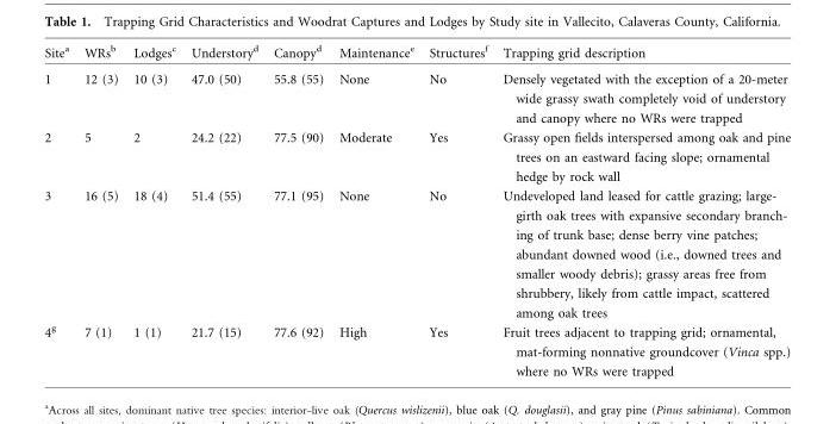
<table><thead><tr><td>Site<sup>a</sup></td><td>WRs<sup>b</sup></td><td>Lodges<sup>c</sup></td><td>Understory<sup>d</sup></td><td>Canopy<sup>d</sup></td><td>Maintenance<sup>e</sup></td><td>Structures<sup>f</sup></td><td>Trapping grid description</td></tr></thead><tbody><tr><td>1</td><td>12 (3)</td><td>10 (3)</td><td>47.0 (50)</td><td>55.8 (55)</td><td>None</td><td>No</td><td>Densely vegetated with the exception of a 20-meter wide grassy swath completely void of understory and canopy where no WRs were trapped</td></tr><tr><td>2</td><td>5</td><td>2</td><td>24.2 (22)</td><td>77.5 (90)</td><td>Moderate</td><td>Yes</td><td>Grassy open fields interspersed among oak and pine trees on an eastward facing slope; ornamental hedge by rock wall</td></tr><tr><td>3</td><td>16 (5)</td><td>18 (4)</td><td>51.4 (55)</td><td>77.1 (95)</td><td>None</td><td>No</td><td>Undeveloped land leased for cattle grazing; large- girth oak trees with expansive secondary branch- ing of trunk base; dense berry vine patches; abundant downed wood (i.e., downed trees and smaller woody debris); grassy areas free from shrubbery, likely from cattle impact, scattered among oak trees</td></tr><tr><td>4<sup>g</sup></td><td>7 (1)</td><td>1 (1)</td><td>21.7 (15)</td><td>77.6 (92)</td><td>High</td><td>Yes</td><td>Fruit trees adjacent to trapping grid; ornamental, mat-forming nonnative groundcover (Vinca spp.) where no WRs were trapped</td></tr></tbody></table>